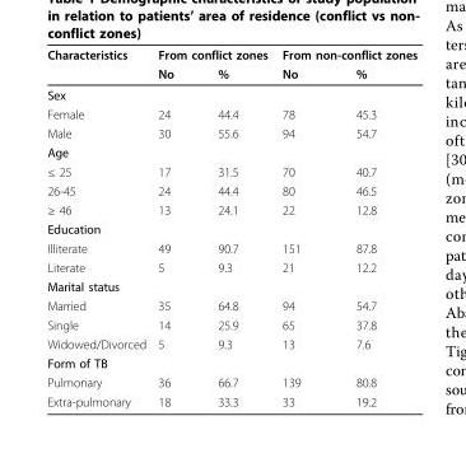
<table><thead><tr><td rowspan="2">Characteristics</td><td colspan="2">From conflict zones</td><td colspan="2">From non-conflict zones</td></tr><tr><td>No</td><td>%</td><td>No</td><td>%</td></tr></thead><tbody><tr><td colspan="5">Sex</td></tr><tr><td>Female</td><td>24</td><td>44.4</td><td>78</td><td>45.3</td></tr><tr><td>Male</td><td>30</td><td>55.6</td><td>94</td><td>54.7</td></tr><tr><td colspan="5">Age</td></tr><tr><td>≤ 25</td><td>17</td><td>31.5</td><td>70</td><td>40.7</td></tr><tr><td>26-45</td><td>24</td><td>44.4</td><td>80</td><td>46.5</td></tr><tr><td>≥ 46</td><td>13</td><td>24.1</td><td>22</td><td>12.8</td></tr><tr><td colspan="5">Education</td></tr><tr><td>Illiterate</td><td>49</td><td>90.7</td><td>151</td><td>87.8</td></tr><tr><td>Literate</td><td>5</td><td>9.3</td><td>21</td><td>12.2</td></tr><tr><td colspan="5">Marital status</td></tr><tr><td>Married</td><td>35</td><td>64.8</td><td>94</td><td>54.7</td></tr><tr><td>Single</td><td>14</td><td>25.9</td><td>65</td><td>37.8</td></tr><tr><td>Widowed/Divorced</td><td>5</td><td>9.3</td><td>13</td><td>7.6</td></tr><tr><td colspan="5">Form of TB</td></tr><tr><td>Pulmonary</td><td>36</td><td>66.7</td><td>139</td><td>80.8</td></tr><tr><td>Extra-pulmonary</td><td>18</td><td>33.3</td><td>33</td><td>19.2</td></tr></tbody></table>